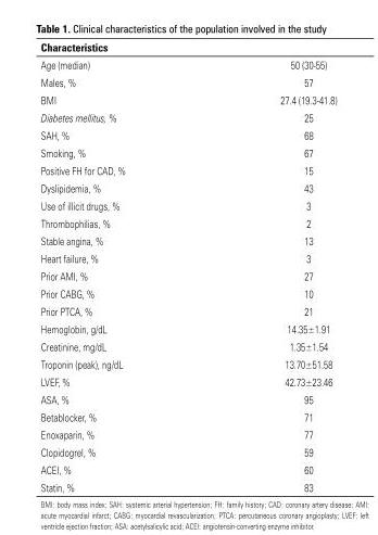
<table><thead><tr><td>characteristics</td><td></td></tr></thead><tbody><tr><td>Age (median)</td><td>50 (30-55)</td></tr><tr><td>Males, %</td><td>57</td></tr><tr><td>BMI</td><td>27.4 (19.3-41.8)</td></tr><tr><td>Diabetes mellitus, %</td><td>25</td></tr><tr><td>SAH, %</td><td>68</td></tr><tr><td>Smoking, %</td><td>67</td></tr><tr><td>Positive FH for CAD, %</td><td>15</td></tr><tr><td>Dyslipidemia, %</td><td>43</td></tr><tr><td>Use of illicit drugs, %</td><td>3</td></tr><tr><td>Thrombophilias, %</td><td>2</td></tr><tr><td>Stable angina, %</td><td>13</td></tr><tr><td>Heart failure, %</td><td>3</td></tr><tr><td>Prior AMI, %</td><td>27</td></tr><tr><td>Prior CABG, %</td><td>10</td></tr><tr><td>Prior PTCA, %</td><td>21</td></tr><tr><td>Hemoglobin, g/dL</td><td>14.35±1.91</td></tr><tr><td>Creatinine, mg/dL</td><td>1.35±1.54</td></tr><tr><td>Troponin (peak), ng/dL</td><td>13.70±51.58</td></tr><tr><td>LVEF, %</td><td>42.73±23.46</td></tr><tr><td>ASA, %</td><td>95</td></tr><tr><td>Betablocker, %</td><td>71</td></tr><tr><td>Enoxaparin, %</td><td>77</td></tr><tr><td>Clopidogrel, %</td><td>59</td></tr><tr><td>ACEI, %</td><td>60</td></tr><tr><td>Statin, %</td><td>83</td></tr></tbody></table>